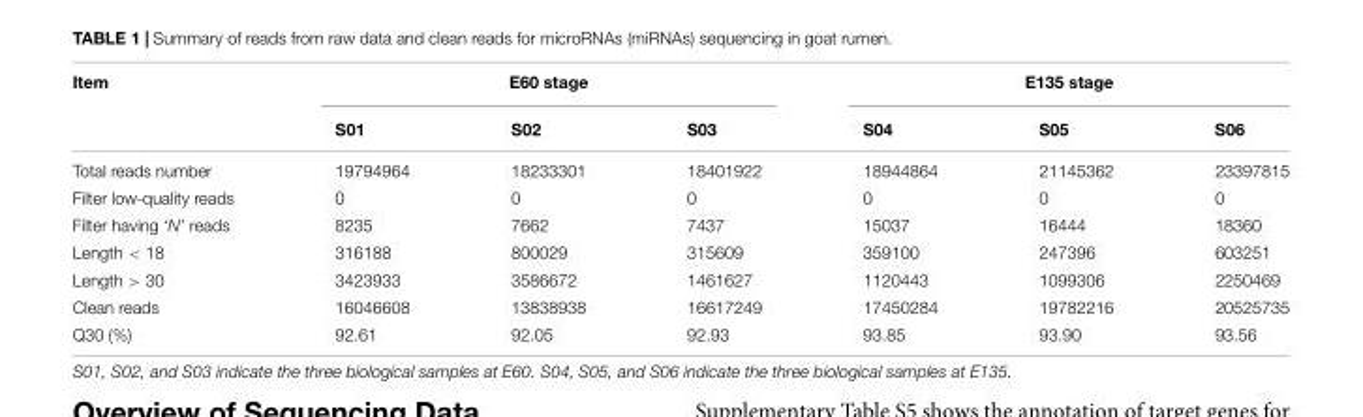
<table><thead><tr><td rowspan="2">Item</td><td colspan="3">E60 stage</td><td colspan="3">E135 stage</td></tr><tr><td>S01</td><td>S02</td><td>S03</td><td>S04</td><td>S05</td><td>S06</td></tr></thead><tbody><tr><td>Total reads number</td><td>19794964</td><td>18233301</td><td>18401922</td><td>18944864</td><td>21145362</td><td>23397815</td></tr><tr><td>Filter low-quality reads</td><td>0</td><td>0</td><td>0</td><td>0</td><td>0</td><td>0</td></tr><tr><td>Filter having ‘N’ reads</td><td>8235</td><td>7662</td><td>7437</td><td>15037</td><td>16444</td><td>18360</td></tr><tr><td>Length &lt; 18</td><td>316188</td><td>800029</td><td>315609</td><td>359100</td><td>247396</td><td>603251</td></tr><tr><td>Length &gt; 30</td><td>3423933</td><td>3586672</td><td>1461627</td><td>1120443</td><td>1099306</td><td>2250469</td></tr><tr><td>Clean reads</td><td>16046608</td><td>13838938</td><td>16617249</td><td>17450284</td><td>19782216</td><td>20525735</td></tr><tr><td>Q30 (%)</td><td>92.61</td><td>92.05</td><td>92.93</td><td>93.85</td><td>93.90</td><td>93.56</td></tr></tbody></table>